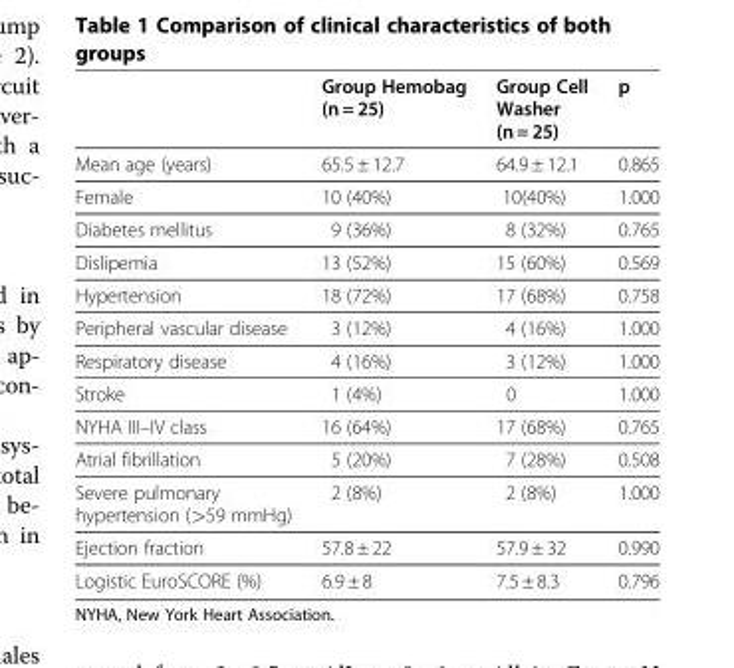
<table><thead><tr><td></td><td>Group Hemobag (n = 25)</td><td>Group Cell Washer (n = 25)</td><td>p</td></tr></thead><tbody><tr><td>Mean age (years)</td><td>65.5 ± 12.7</td><td>64.9 ± 12.1</td><td>0.865</td></tr><tr><td>Female</td><td>10 (40%)</td><td>10(40%)</td><td>1.000</td></tr><tr><td>Diabetes mellitus</td><td>9 (36%)</td><td>8 (32%)</td><td>0.765</td></tr><tr><td>Dislipemia</td><td>13 (52%)</td><td>15 (60%)</td><td>0.569</td></tr><tr><td>Hypertension</td><td>18 (72%)</td><td>17 (68%)</td><td>0.758</td></tr><tr><td>Peripheral vascular disease</td><td>3 (12%)</td><td>4 (16%)</td><td>1.000</td></tr><tr><td>Respiratory disease</td><td>4 (16%)</td><td>3 (12%)</td><td>1.000</td></tr><tr><td>Stroke</td><td>1 (4%)</td><td>0</td><td>1.000</td></tr><tr><td>NYHA III–IV class</td><td>16 (64%)</td><td>17 (68%)</td><td>0.765</td></tr><tr><td>Atrial fibrillation</td><td>5 (20%)</td><td>7 (28%)</td><td>0.508</td></tr><tr><td>Severe pulmonary hypertension (&gt;59 mmHg)</td><td>2 (8%)</td><td>2 (8%)</td><td>1.000</td></tr><tr><td>Ejection fraction</td><td>57.8 ± 22</td><td>57.9 ± 32</td><td>0.990</td></tr><tr><td>Logistic EuroSCORE (%)</td><td>6.9 ± 8</td><td>7.5 ± 8.3</td><td>0.796</td></tr></tbody></table>